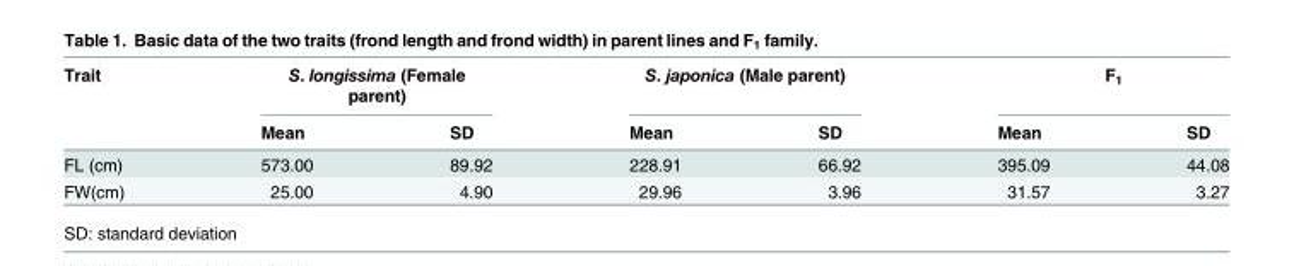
<table><thead><tr><td rowspan="2">Trait</td><td colspan="2">S. longissima (Female parent)</td><td colspan="2">S. japonica (Male parent)</td><td colspan="2">F<sub>1</sub></td></tr><tr><td>Mean</td><td>SD</td><td>Mean</td><td>SD</td><td>Mean</td><td>SD</td></tr></thead><tbody><tr><td>FL (cm)</td><td>573.00</td><td>89.92</td><td>228.91</td><td>66.92</td><td>395.09</td><td>44.08</td></tr><tr><td>FW(cm)</td><td>25.00</td><td>4.90</td><td>29.96</td><td>3.96</td><td>31.57</td><td>3.27</td></tr></tbody></table>